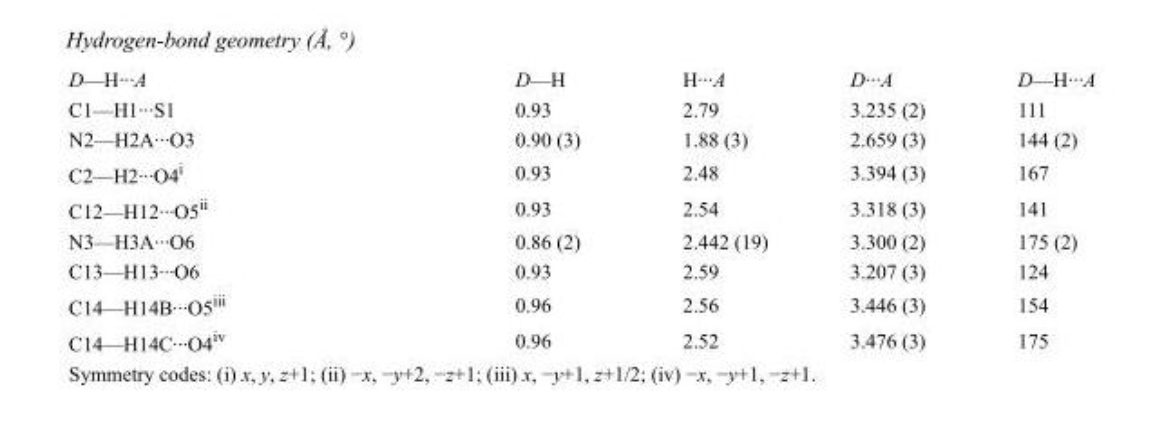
<table><tbody><tr><td>D—H···A</td><td>D—H</td><td>H···A</td><td>D···A</td><td>D—H···A</td></tr><tr><td>C1—H1···S1</td><td>0.93</td><td>2.79</td><td>3.235 (2)</td><td>111</td></tr><tr><td>N2—H2A···O3</td><td>0.90 (3)</td><td>1.88 (3)</td><td>2.659 (3)</td><td>144 (2)</td></tr><tr><td>C2—H2···O4<sup>i</sup></td><td>0.93</td><td>2.48</td><td>3.394 (3)</td><td>167</td></tr><tr><td>C12—H12···O5<sup>ii</sup></td><td>0.93</td><td>2.54</td><td>3.318 (3)</td><td>141</td></tr><tr><td>N3—H3A···O6</td><td>0.86 (2)</td><td>2.442 (19)</td><td>3.300 (2)</td><td>175 (2)</td></tr><tr><td>C13—H13···O6</td><td>0.93</td><td>2.59</td><td>3.207 (3)</td><td>124</td></tr><tr><td>C14—H14B···O5<sup>iii</sup></td><td>0.96</td><td>2.56</td><td>3.446 (3)</td><td>154</td></tr><tr><td>C14—H14C···O4<sup>iv</sup></td><td>0.96</td><td>2.52</td><td>3.476 (3)</td><td>175</td></tr></tbody></table>